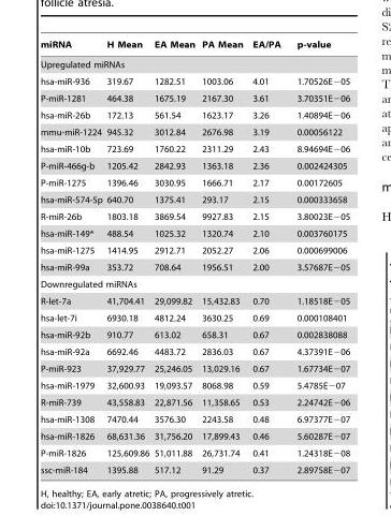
<table><thead><tr><td>miRNA</td><td>H Mean</td><td>EA Mean</td><td>PA Mean</td><td>EA/PA</td><td>p-value</td></tr></thead><tbody><tr><td colspan="6">Upregulated miRNAs</td></tr><tr><td>hsa-miR-936</td><td>319.67</td><td>1282.51</td><td>1003.06</td><td>4.01</td><td>1.70526E−05</td></tr><tr><td>P-miR-1281</td><td>464.38</td><td>1675.19</td><td>2167.30</td><td>3.61</td><td>3.70351E−06</td></tr><tr><td>hsa-miR-26b</td><td>172.13</td><td>561.54</td><td>1623.17</td><td>3.26</td><td>1.40894E−06</td></tr><tr><td>mmu-miR-1224</td><td>945.32</td><td>3012.84</td><td>2676.98</td><td>3.19</td><td>0.00056122</td></tr><tr><td>hsa-miR-10b</td><td>723.69</td><td>1760.22</td><td>2311.29</td><td>2.43</td><td>8.94694E−06</td></tr><tr><td>P-miR-466g-b</td><td>1205.42</td><td>2842.93</td><td>1363.18</td><td>2.36</td><td>0.002424305</td></tr><tr><td>P-miR-1275</td><td>1396.46</td><td>3030.95</td><td>1666.71</td><td>2.17</td><td>0.00172605</td></tr><tr><td>hsa-miR-574-5p</td><td>640.70</td><td>1375.41</td><td>293.17</td><td>2.15</td><td>0.000333658</td></tr><tr><td>R-miR-26b</td><td>1803.18</td><td>3869.54</td><td>9927.83</td><td>2.15</td><td>3.80023E−05</td></tr><tr><td>hsa-miR-149*</td><td>488.54</td><td>1025.32</td><td>1320.74</td><td>2.10</td><td>0.003760175</td></tr><tr><td>hsa-miR-1275</td><td>1414.95</td><td>2912.71</td><td>2052.27</td><td>2.06</td><td>0.000699006</td></tr><tr><td>hsa-miR-99a</td><td>353.72</td><td>708.64</td><td>1956.51</td><td>2.00</td><td>3.57687E−05</td></tr><tr><td colspan="6">Downregulated miRNAs</td></tr><tr><td>R-let-7a</td><td>41,704.41</td><td>29,099.82</td><td>15,432.83</td><td>0.70</td><td>1.18518E−05</td></tr><tr><td>hsa-let-7i</td><td>6930.18</td><td>4812.24</td><td>3630.25</td><td>0.69</td><td>0.000108401</td></tr><tr><td>hsa-miR-92b</td><td>910.77</td><td>613.02</td><td>658.31</td><td>0.67</td><td>0.002838088</td></tr><tr><td>hsa-miR-92a</td><td>6692.46</td><td>4483.72</td><td>2836.03</td><td>0.67</td><td>4.37391E−06</td></tr><tr><td>P-miR-923</td><td>37,929.77</td><td>25,246.05</td><td>13,029.16</td><td>0.67</td><td>1.67734E−07</td></tr><tr><td>hsa-miR-1979</td><td>32,600.93</td><td>19,093.57</td><td>8068.98</td><td>0.59</td><td>5.4785E−07</td></tr><tr><td>R-miR-739</td><td>43,558.83</td><td>22,871.56</td><td>11,358.65</td><td>0.53</td><td>2.24742E−06</td></tr><tr><td>hsa-miR-1308</td><td>7470.44</td><td>3576.30</td><td>2243.58</td><td>0.48</td><td>6.97377E−07</td></tr><tr><td>hsa-miR-1826</td><td>68,631.36</td><td>31,756.20</td><td>17,899.43</td><td>0.46</td><td>5.60287E−07</td></tr><tr><td>P-miR-1826</td><td>125,609.86</td><td>51,011.88</td><td>26,731.74</td><td>0.41</td><td>1.24318E−08</td></tr><tr><td>ssc-miR-184</td><td>1395.88</td><td>517.12</td><td>91.29</td><td>0.37</td><td>2.89758E−07</td></tr></tbody></table>